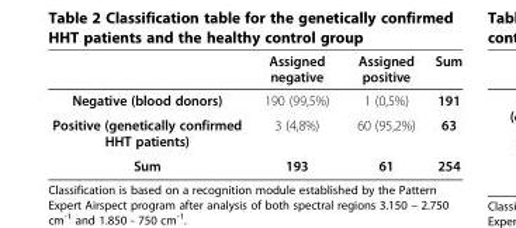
<table><thead><tr><td></td><td>Assigned negative</td><td>Assigned positive</td><td>Sum</td></tr></thead><tbody><tr><td>Negative (blood donors)</td><td>190 (99,5%)</td><td>1 (0,5%)</td><td>191</td></tr><tr><td>Positive (genetically confirmed HHT patients)</td><td>3 (4,8%)</td><td>60 (95,2%)</td><td>63</td></tr><tr><td>Sum</td><td>193</td><td>61</td><td>254</td></tr></tbody></table>